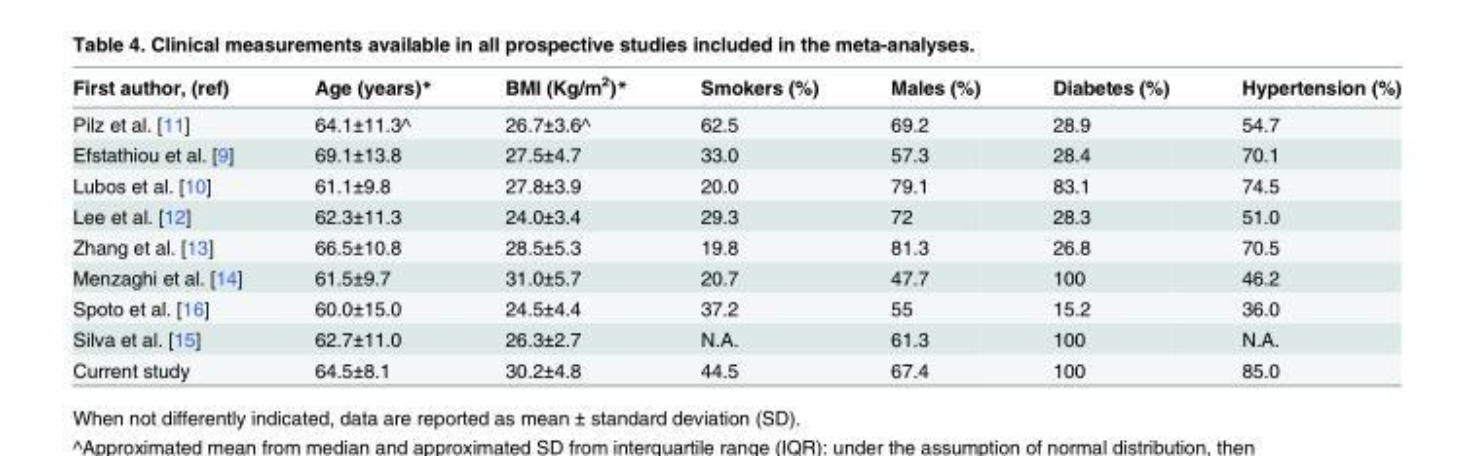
<table><thead><tr><td>First author, (ref)</td><td>Age (years)*</td><td>BMI (Kg/m<sup>2</sup>)*</td><td>Smokers (%)</td><td>Males (%)</td><td>Diabetes (%)</td><td>Hypertension (%)</td></tr></thead><tbody><tr><td>Pilz et al. [11]</td><td>64.1±11.3^</td><td>26.7±3.6^</td><td>62.5</td><td>69.2</td><td>28.9</td><td>54.7</td></tr><tr><td>Efstathiou et al. [9]</td><td>69.1±13.8</td><td>27.5±4.7</td><td>33.0</td><td>57.3</td><td>28.4</td><td>70.1</td></tr><tr><td>Lubos et al. [10]</td><td>61.1±9.8</td><td>27.8±3.9</td><td>20.0</td><td>79.1</td><td>83.1</td><td>74.5</td></tr><tr><td>Lee et al. [12]</td><td>62.3±11.3</td><td>24.0±3.4</td><td>29.3</td><td>72</td><td>28.3</td><td>51.0</td></tr><tr><td>Zhang et al. [13]</td><td>66.5±10.8</td><td>28.5±5.3</td><td>19.8</td><td>81.3</td><td>26.8</td><td>70.5</td></tr><tr><td>Menzaghi et al. [14]</td><td>61.5±9.7</td><td>31.0±5.7</td><td>20.7</td><td>47.7</td><td>100</td><td>46.2</td></tr><tr><td>Spoto et al. [16]</td><td>60.0±15.0</td><td>24.5±4.4</td><td>37.2</td><td>55</td><td>15.2</td><td>36.0</td></tr><tr><td>Silva et al. [15]</td><td>62.7±11.0</td><td>26.3±2.7</td><td>N.A.</td><td>61.3</td><td>100</td><td>N.A.</td></tr><tr><td>Current study</td><td>64.5±8.1</td><td>30.2±4.8</td><td>44.5</td><td>67.4</td><td>100</td><td>85.0</td></tr></tbody></table>